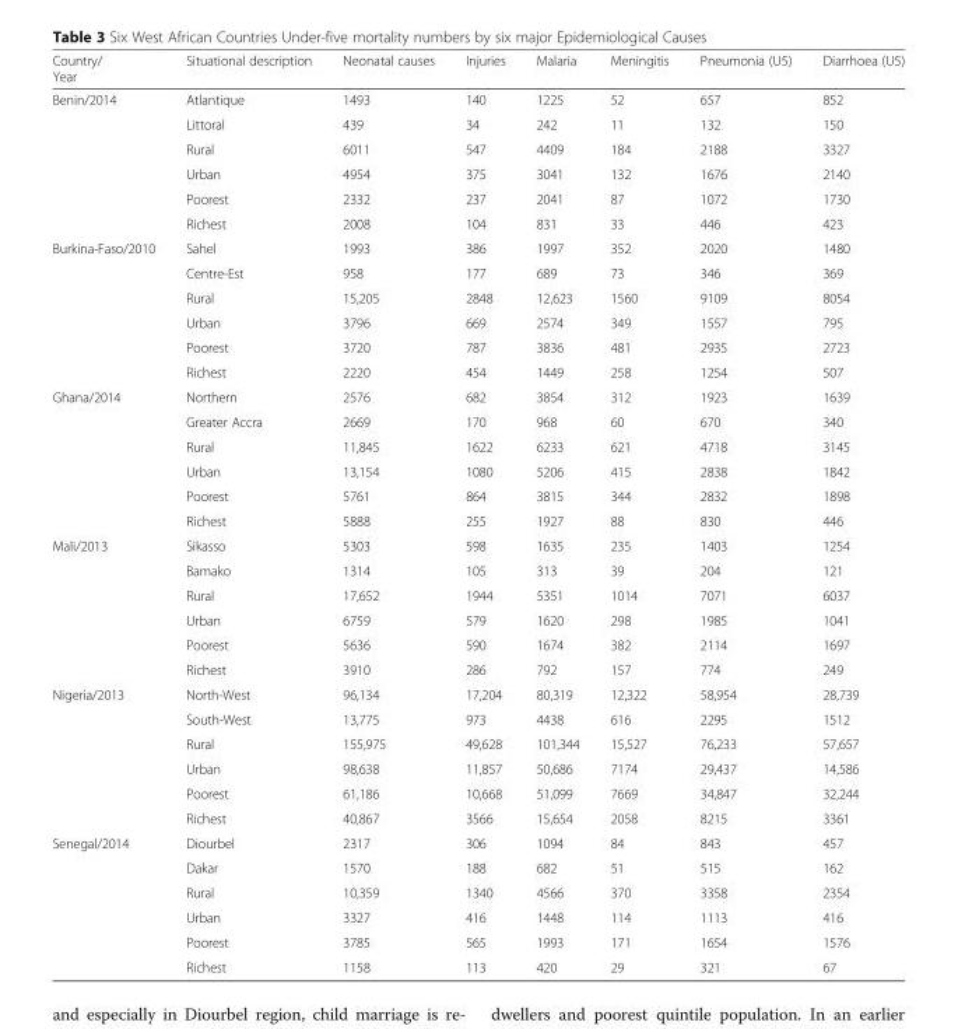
<table><thead><tr><td>Country/ Year</td><td>Situational description</td><td>Neonatal causes</td><td>Injuries</td><td>Malaria</td><td>Meningitis</td><td>Pneumonia (U5)</td><td>Diarrhoea (U5)</td></tr></thead><tbody><tr><td rowspan="6">Benin/2014</td><td>Atlantique</td><td>1493</td><td>140</td><td>1225</td><td>52</td><td>657</td><td>852</td></tr><tr><td>Littoral</td><td>439</td><td>34</td><td>242</td><td>11</td><td>132</td><td>150</td></tr><tr><td>Rural</td><td>6011</td><td>547</td><td>4409</td><td>184</td><td>2188</td><td>3327</td></tr><tr><td>Urban</td><td>4954</td><td>375</td><td>3041</td><td>132</td><td>1676</td><td>2140</td></tr><tr><td>Poorest</td><td>2332</td><td>237</td><td>2041</td><td>87</td><td>1072</td><td>1730</td></tr><tr><td>Richest</td><td>2008</td><td>104</td><td>831</td><td>33</td><td>446</td><td>423</td></tr><tr><td rowspan="6">Burkina-Faso/2010</td><td>Sahel</td><td>1993</td><td>386</td><td>1997</td><td>352</td><td>2020</td><td>1480</td></tr><tr><td>Centre-Est</td><td>958</td><td>177</td><td>689</td><td>73</td><td>346</td><td>369</td></tr><tr><td>Rural</td><td>15,205</td><td>2848</td><td>12,623</td><td>1560</td><td>9109</td><td>8054</td></tr><tr><td>Urban</td><td>3796</td><td>669</td><td>2574</td><td>349</td><td>1557</td><td>795</td></tr><tr><td>Poorest</td><td>3720</td><td>787</td><td>3836</td><td>481</td><td>2935</td><td>2723</td></tr><tr><td>Richest</td><td>2220</td><td>454</td><td>1449</td><td>258</td><td>1254</td><td>507</td></tr><tr><td rowspan="6">Ghana/2014</td><td>Northern</td><td>2576</td><td>682</td><td>3854</td><td>312</td><td>1923</td><td>1639</td></tr><tr><td>Greater Accra</td><td>2669</td><td>170</td><td>968</td><td>60</td><td>670</td><td>340</td></tr><tr><td>Rural</td><td>11,845</td><td>1622</td><td>6233</td><td>621</td><td>4718</td><td>3145</td></tr><tr><td>Urban</td><td>13,154</td><td>1080</td><td>5206</td><td>415</td><td>2838</td><td>1842</td></tr><tr><td>Poorest</td><td>5761</td><td>864</td><td>3815</td><td>344</td><td>2832</td><td>1898</td></tr><tr><td>Richest</td><td>5888</td><td>255</td><td>1927</td><td>88</td><td>830</td><td>446</td></tr><tr><td rowspan="6">Mali/2013</td><td>Sikasso</td><td>5303</td><td>598</td><td>1635</td><td>235</td><td>1403</td><td>1254</td></tr><tr><td>Bamako</td><td>1314</td><td>105</td><td>313</td><td>39</td><td>204</td><td>121</td></tr><tr><td>Rural</td><td>17,652</td><td>1944</td><td>5351</td><td>1014</td><td>7071</td><td>6037</td></tr><tr><td>Urban</td><td>6759</td><td>579</td><td>1620</td><td>298</td><td>1985</td><td>1041</td></tr><tr><td>Poorest</td><td>5636</td><td>590</td><td>1674</td><td>382</td><td>2114</td><td>1697</td></tr><tr><td>Richest</td><td>3910</td><td>286</td><td>792</td><td>157</td><td>774</td><td>249</td></tr><tr><td rowspan="6">Nigeria/2013</td><td>North-West</td><td>96,134</td><td>17,204</td><td>80,319</td><td>12,322</td><td>58,954</td><td>28,739</td></tr><tr><td>South-West</td><td>13,775</td><td>973</td><td>4438</td><td>616</td><td>2295</td><td>1512</td></tr><tr><td>Rural</td><td>155,975</td><td>49,628</td><td>101,344</td><td>15,527</td><td>76,233</td><td>57,657</td></tr><tr><td>Urban</td><td>98,638</td><td>11,857</td><td>50,686</td><td>7174</td><td>29,437</td><td>14,586</td></tr><tr><td>Poorest</td><td>61,186</td><td>10,668</td><td>51,099</td><td>7669</td><td>34,847</td><td>32,244</td></tr><tr><td>Richest</td><td>40,867</td><td>3566</td><td>15,654</td><td>2058</td><td>8215</td><td>3361</td></tr><tr><td rowspan="6">Senegal/2014</td><td>Diourbel</td><td>2317</td><td>306</td><td>1094</td><td>84</td><td>843</td><td>457</td></tr><tr><td>Dakar</td><td>1570</td><td>188</td><td>682</td><td>51</td><td>515</td><td>162</td></tr><tr><td>Rural</td><td>10,359</td><td>1340</td><td>4566</td><td>370</td><td>3358</td><td>2354</td></tr><tr><td>Urban</td><td>3327</td><td>416</td><td>1448</td><td>114</td><td>1113</td><td>416</td></tr><tr><td>Poorest</td><td>3785</td><td>565</td><td>1993</td><td>171</td><td>1654</td><td>1576</td></tr><tr><td>Richest</td><td>1158</td><td>113</td><td>420</td><td>29</td><td>321</td><td>67</td></tr></tbody></table>